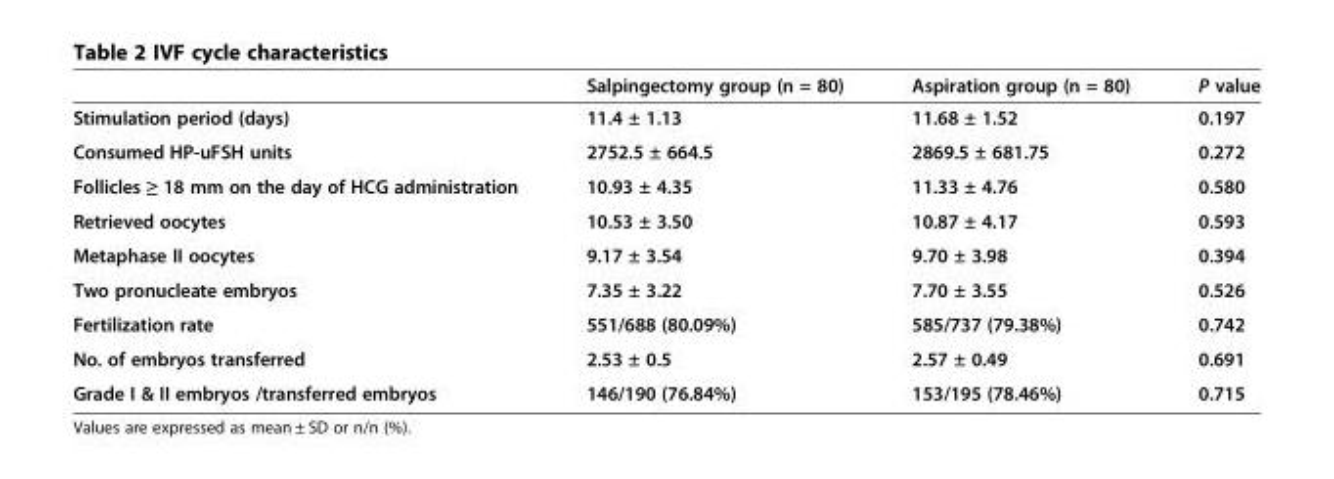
<table><thead><tr><td></td><td>Salpingectomy group (n = 80)</td><td>Aspiration group (n = 80)</td><td>P value</td></tr></thead><tbody><tr><td>Stimulation period (days)</td><td>11.4 ± 1.13</td><td>11.68 ± 1.52</td><td>0.197</td></tr><tr><td>Consumed HP-uFSH units</td><td>2752.5 ± 664.5</td><td>2869.5 ± 681.75</td><td>0.272</td></tr><tr><td>Follicles ≥ 18 mm on the day of HCG administration</td><td>10.93 ± 4.35</td><td>11.33 ± 4.76</td><td>0.580</td></tr><tr><td>Retrieved oocytes</td><td>10.53 ± 3.50</td><td>10.87 ± 4.17</td><td>0.593</td></tr><tr><td>Metaphase II oocytes</td><td>9.17 ± 3.54</td><td>9.70 ± 3.98</td><td>0.394</td></tr><tr><td>Two pronucleate embryos</td><td>7.35 ± 3.22</td><td>7.70 ± 3.55</td><td>0.526</td></tr><tr><td>Fertilization rate</td><td>551/688 (80.09%)</td><td>585/737 (79.38%)</td><td>0.742</td></tr><tr><td>No. of embryos transferred</td><td>2.53 ± 0.5</td><td>2.57 ± 0.49</td><td>0.691</td></tr><tr><td>Grade I &amp; II embryos /transferred embryos</td><td>146/190 (76.84%)</td><td>153/195 (78.46%)</td><td>0.715</td></tr></tbody></table>